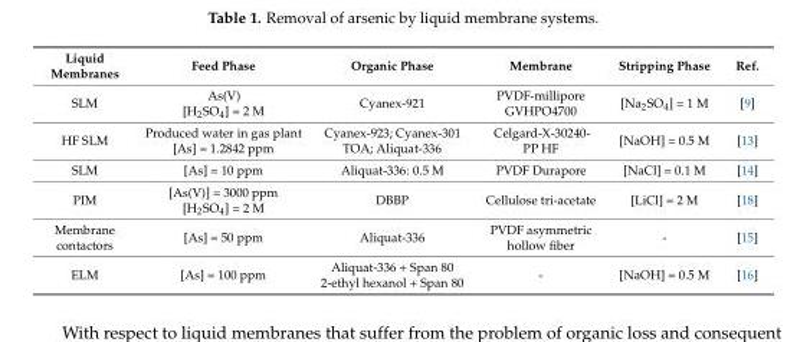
<table><thead><tr><td>Liquid Membranes</td><td>Feed Phase</td><td>Organic Phase</td><td>Membrane</td><td>Stripping Phase</td><td>Ref.</td></tr></thead><tbody><tr><td>SLM</td><td>As(V) [H<sub>2</sub>SO<sub>4</sub>] = 2 M</td><td>Cyanex-921</td><td>PVDF-millipore GVHPO4700</td><td>[Na<sub>2</sub>SO<sub>4</sub>] = 1 M</td><td>[9]</td></tr><tr><td>HF SLM</td><td>Produced water in gas plant [As] = 1.2842 ppm</td><td>Cyanex-923; Cyanex-301 TOA; Aliquat-336</td><td>Celgard-X-30240- PP HF</td><td>[NaOH] = 0.5 M</td><td>[13]</td></tr><tr><td>SLM</td><td>[As] = 10 ppm</td><td>Aliquat-336: 0.5 M</td><td>PVDF Durapore</td><td>[NaCl] = 0.1 M</td><td>[14]</td></tr><tr><td>PIM</td><td>[As(V)] = 3000 ppm [H<sub>2</sub>SO<sub>4</sub>] = 2 M</td><td>DBBP</td><td>Cellulose tri-acetate</td><td>[LiCl] = 2 M</td><td>[18]</td></tr><tr><td>Membrane contactors</td><td>[As] = 50 ppm</td><td>Aliquat-336</td><td>PVDF asymmetric hollow fiber</td><td>-</td><td>[15]</td></tr><tr><td>ELM</td><td>[As] = 100 ppm</td><td>Aliquat-336 + Span 80 2-ethyl hexanol + Span 80</td><td>-</td><td>[NaOH] = 0.5 M</td><td>[16]</td></tr></tbody></table>